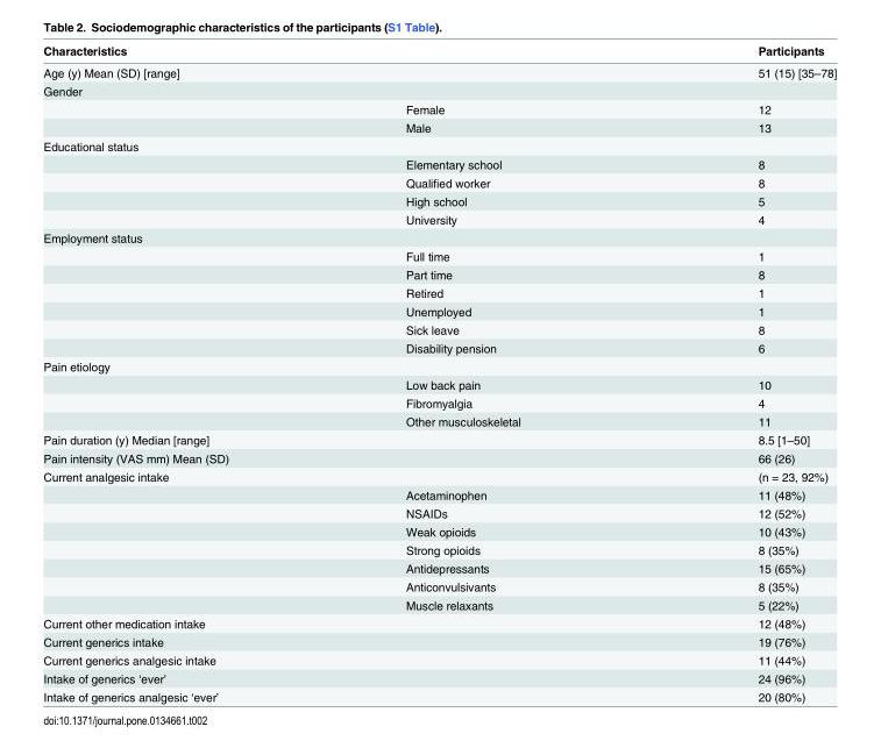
<table><thead><tr><td rowspan="2" colspan="2">Characteristics Age (y) Mean (SD) [range]</td><td rowspan="3">Participants 51 (15) [35–78]</td></tr><tr></tr><tr><td>Gender</td><td></td></tr></thead><tbody><tr><td></td><td>Female</td><td>12</td></tr><tr><td></td><td>Male</td><td>13</td></tr><tr><td colspan="3">Educational status</td></tr><tr><td></td><td>Elementary school</td><td>8</td></tr><tr><td></td><td>Qualified worker</td><td>8</td></tr><tr><td></td><td>High school</td><td>5</td></tr><tr><td></td><td>University</td><td>4</td></tr><tr><td colspan="3">Employment status</td></tr><tr><td></td><td>Full time</td><td>1</td></tr><tr><td></td><td>Part time</td><td>8</td></tr><tr><td></td><td>Retired</td><td>1</td></tr><tr><td></td><td>Unemployed</td><td>1</td></tr><tr><td></td><td>Sick leave</td><td>8</td></tr><tr><td></td><td>Disability pension</td><td>6</td></tr><tr><td colspan="3">Pain etiology</td></tr><tr><td></td><td>Low back pain</td><td>10</td></tr><tr><td></td><td>Fibromyalgia</td><td>4</td></tr><tr><td></td><td>Other musculoskeletal</td><td>11</td></tr><tr><td colspan="2">Pain duration (y) Median [range]</td><td>8.5 [1–50]</td></tr><tr><td colspan="2">Pain intensity (VAS mm) Mean (SD)</td><td>66 (26)</td></tr><tr><td rowspan="8">Current analgesic intake</td><td></td><td>(n = 23, 92%)</td></tr><tr><td>Acetaminophen</td><td>11 (48%)</td></tr><tr><td>NSAIDs</td><td>12 (52%)</td></tr><tr><td>Weak opioids</td><td>10 (43%)</td></tr><tr><td>Strong opioids</td><td>8 (35%)</td></tr><tr><td>Antidepressants</td><td>15 (65%)</td></tr><tr><td>Anticonvulsivants</td><td>8 (35%)</td></tr><tr><td>Muscle relaxants</td><td>5 (22%)</td></tr><tr><td colspan="2">Current other medication intake</td><td>12 (48%)</td></tr><tr><td colspan="2">Current generics intake</td><td>19 (76%)</td></tr><tr><td colspan="2">Current generics analgesic intake</td><td>11 (44%)</td></tr><tr><td colspan="2">Intake of generics ‘ever’</td><td>24 (96%)</td></tr><tr><td colspan="2">Intake of generics analgesic ‘ever’</td><td>20 (80%)</td></tr></tbody></table>